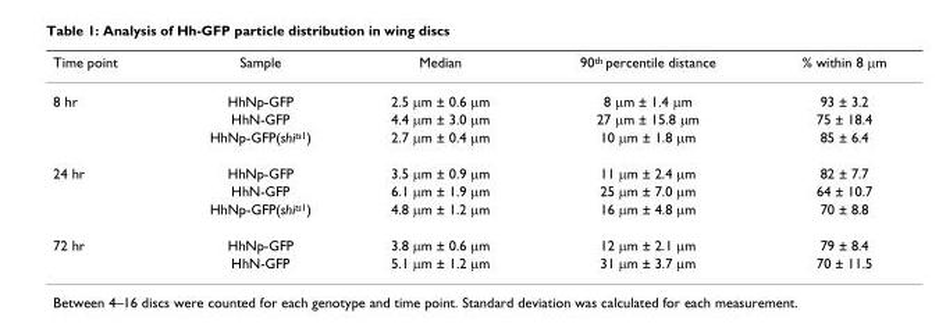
<table><thead><tr><td>Time point</td><td>Sample</td><td>Median</td><td>90<sup>th</sup> percentile distance</td><td>% within 8 μm</td></tr></thead><tbody><tr><td rowspan="3">8 hr</td><td>HhNp-GFP</td><td>2.5 μm ± 0.6 μm</td><td>8 μm ± 1.4 μm</td><td>93 ± 3.2</td></tr><tr><td>HhN-GFP</td><td>4.4 μm ± 3.0 μm</td><td>27 μm ± 15.8 μm</td><td>75 ± 18.4</td></tr><tr><td>HhNp-GFP(shi<sup>ts1</sup>)</td><td>2.7 μm ± 0.4 μm</td><td>10 μm ± 1.8 μm</td><td>85 ± 6.4</td></tr><tr><td rowspan="3">24 hr</td><td>HhNp-GFP</td><td>3.5 μm ± 0.9 μm</td><td>11 μm ± 2.4 μm</td><td>82 ± 7.7</td></tr><tr><td>HhN-GFP</td><td>6.1 μm ± 1.9 μm</td><td>25 μm ± 7.0 μm</td><td>64 ± 10.7</td></tr><tr><td>HhNp-GFP(shi<sup>ts1</sup>)</td><td>4.8 μm ± 1.2 μm</td><td>16 μm ± 4.8 μm</td><td>70 ± 8.8</td></tr><tr><td rowspan="2">72 hr</td><td>HhNp-GFP</td><td>3.8 μm ± 0.6 μm</td><td>12 μm ± 2.1 μm</td><td>79 ± 8.4</td></tr><tr><td>HhN-GFP</td><td>5.1 μm ± 1.2 μm</td><td>31 μm ± 3.7 μm</td><td>70 ± 11.5</td></tr></tbody></table>